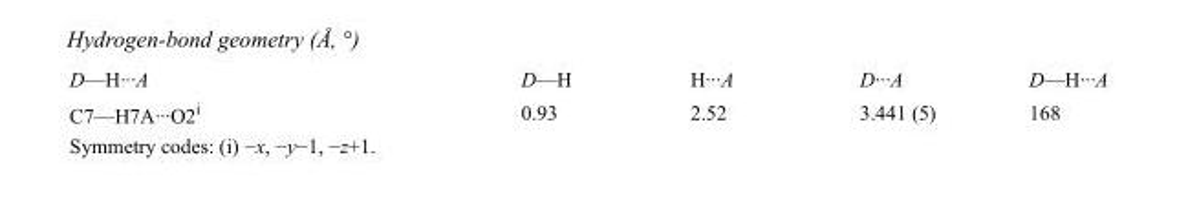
<table><tbody><tr><td>D—H···A</td><td>D—H</td><td>H···A</td><td>D···A</td><td>D—H···A</td></tr><tr><td>C7—H7A···O2<sup>i</sup></td><td>0.93</td><td>2.52</td><td>3.441 (5)</td><td>168</td></tr></tbody></table>